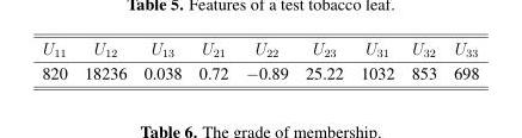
<table><thead><tr><td>U<sub>11</sub></td><td>U<sub>12</sub></td><td>U<sub>13</sub></td><td>U<sub>21</sub></td><td>U<sub>22</sub></td><td>U<sub>23</sub></td><td>U<sub>31</sub></td><td>U<sub>32</sub></td><td>U<sub>33</sub></td></tr></thead><tbody><tr><td>820</td><td>18236</td><td>0.038</td><td>0.72</td><td>−0.89</td><td>25.22</td><td>1032</td><td>853</td><td>698</td></tr></tbody></table>